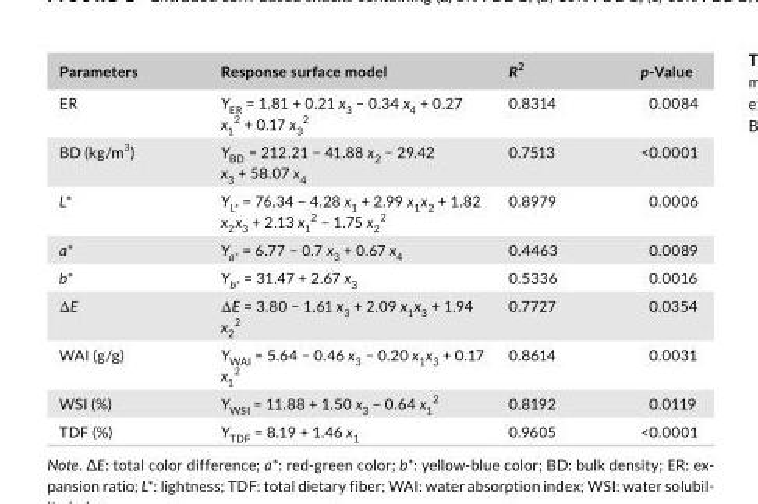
<table><thead><tr><td>Parameters</td><td>Response surface model</td><td>R<sup>2</sup></td><td>p- Value</td></tr></thead><tbody><tr><td>ER</td><td>Y<sub>ER</sub> = 1.81 + 0.21 x<sub>3</sub> − 0.34 x<sub>4</sub> + 0.27 x<sub>1</sub> <sup>2</sup> + 0.17 x<sub>3</sub> <sup>2</sup></td><td>0.8314</td><td>0.0084</td></tr><tr><td>BD (kg/m<sup>3</sup>)</td><td>Y<sub>BD</sub> = 212.21 − 41.88 x<sub>2</sub> − 29.42 x<sub>3</sub> + 58.07 x<sub>4</sub></td><td>0.7513</td><td>&lt;0.0001</td></tr><tr><td>L*</td><td>Y<sub>L*</sub> = 76.34 − 4.28 x<sub>1</sub> + 2.99 x<sub>1</sub>x<sub>2</sub> + 1.82 x<sub>2</sub>x<sub>3</sub> + 2.13 x<sub>1</sub> <sup>2</sup> − 1.75 x<sub>2</sub> <sup>2</sup></td><td>0.8979</td><td>0.0006</td></tr><tr><td>a*</td><td>Y<sub>a*</sub> = 6.77 − 0.7 x<sub>3</sub> + 0.67 x<sub>4</sub></td><td>0.4463</td><td>0.0089</td></tr><tr><td>b*</td><td>Y<sub>b*</sub> = 31.47 + 2.67 x<sub>3</sub></td><td>0.5336</td><td>0.0016</td></tr><tr><td>ΔE</td><td>ΔE = 3.80 − 1.61 x<sub>3</sub> + 2.09 x<sub>1</sub>x<sub>3</sub> + 1.94 x<sub>2</sub> <sup>2</sup></td><td>0.7727</td><td>0.0354</td></tr><tr><td>WAI (g/g)</td><td>Y<sub>WAI</sub> = 5.64 − 0.46 x<sub>3</sub> − 0.20 x<sub>1</sub>x<sub>3</sub> + 0.17 x<sub>1</sub> <sup>2</sup></td><td>0.8614</td><td>0.0031</td></tr><tr><td>WSI (%)</td><td>Y<sub>WSI</sub> = 11.88 + 1.50 x<sub>3</sub> − 0.64 x<sub>1</sub> <sup>2</sup></td><td>0.8192</td><td>0.0119</td></tr><tr><td>TDF (%)</td><td>Y<sub>TDF</sub> = 8.19 + 1.46 x<sub>1</sub></td><td>0.9605</td><td>&lt;0.0001</td></tr></tbody></table>